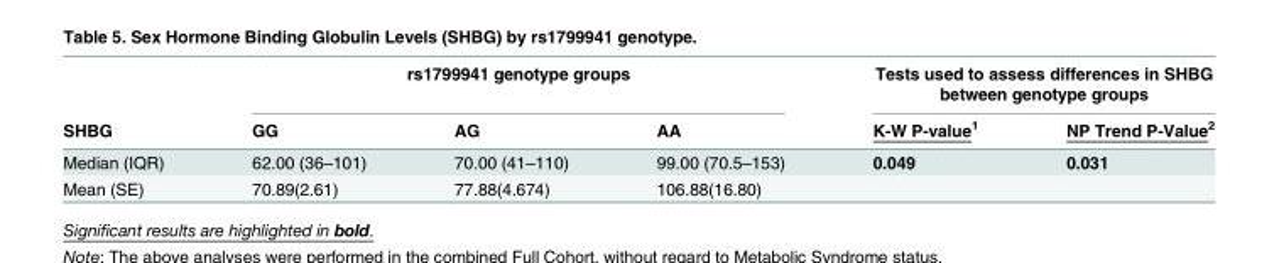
<table><thead><tr><td rowspan="2">SHBG</td><td colspan="3">rs1799941 genotype groups</td><td colspan="2">Tests used to assess differences in SHBG between genotype groups</td></tr><tr><td>GG</td><td>AG</td><td>AA</td><td>K-W P-value<sup>1</sup></td><td>NP Trend P-Value<sup>2</sup></td></tr></thead><tbody><tr><td>Median (IQR)</td><td>62.00 (36–101)</td><td>70.00 (41–110)</td><td>99.00 (70.5–153)</td><td>0.049</td><td>0.031</td></tr><tr><td>Mean (SE)</td><td>70.89(2.61)</td><td>77.88(4.674)</td><td>106.88(16.80)</td><td></td><td></td></tr></tbody></table>